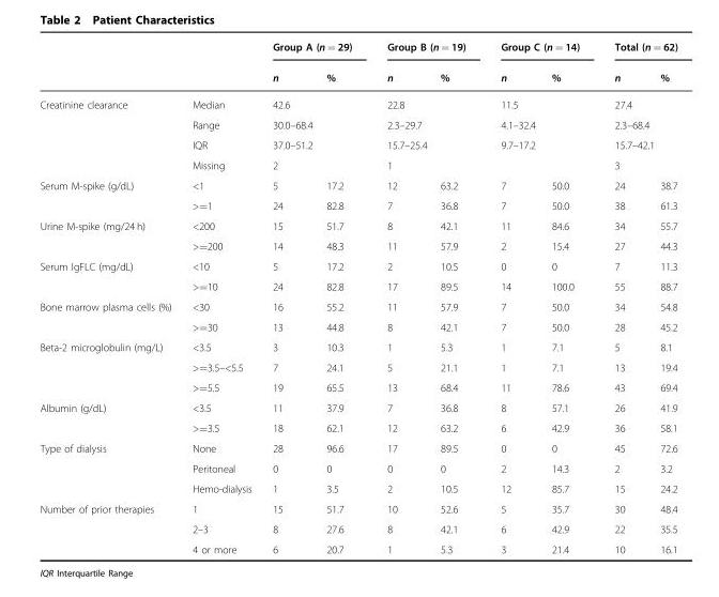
<table><thead><tr><td rowspan="2"></td><td rowspan="2"></td><td colspan="2">Group A (n = 29)</td><td colspan="2">Group B (n = 19)</td><td colspan="2">Group C (n = 14)</td><td colspan="2">Total (n = 62)</td></tr><tr><td>n</td><td>%</td><td>n</td><td>%</td><td>n</td><td>%</td><td>n</td><td>%</td></tr></thead><tbody><tr><td rowspan="4">Creatinine clearance</td><td>Median</td><td colspan="2">42.6</td><td colspan="2">22.8</td><td colspan="2">11.5</td><td colspan="2">27.4</td></tr><tr><td>Range</td><td colspan="2">30.0–68.4</td><td colspan="2">2.3–29.7</td><td colspan="2">4.1–32.4</td><td colspan="2">2.3–68.4</td></tr><tr><td>IQR</td><td colspan="2">37.0–51.2</td><td colspan="2">15.7–25.4</td><td colspan="2">9.7–17.2</td><td colspan="2">15.7–42.1</td></tr><tr><td>Missing</td><td colspan="2">2</td><td colspan="2">1</td><td></td><td></td><td colspan="2">3</td></tr><tr><td rowspan="2">Serum M-spike (g/dL)</td><td>&lt;1</td><td>5</td><td>17.2</td><td>12</td><td>63.2</td><td>7</td><td>50.0</td><td>24</td><td>38.7</td></tr><tr><td>&gt;=1</td><td>24</td><td>82.8</td><td>7</td><td>36.8</td><td>7</td><td>50.0</td><td>38</td><td>61.3</td></tr><tr><td rowspan="2">Urine M-spike (mg/24 h)</td><td>&lt;200</td><td>15</td><td>51.7</td><td>8</td><td>42.1</td><td>11</td><td>84.6</td><td>34</td><td>55.7</td></tr><tr><td>&gt;=200</td><td>14</td><td>48.3</td><td>11</td><td>57.9</td><td>2</td><td>15.4</td><td>27</td><td>44.3</td></tr><tr><td rowspan="2">Serum IgFLC (mg/dL)</td><td>&lt;10</td><td>5</td><td>17.2</td><td>2</td><td>10.5</td><td>0</td><td>0</td><td>7</td><td>11.3</td></tr><tr><td>&gt;=10</td><td>24</td><td>82.8</td><td>17</td><td>89.5</td><td>14</td><td>100.0</td><td>55</td><td>88.7</td></tr><tr><td rowspan="2">Bone marrow plasma cells (%)</td><td>&lt;30</td><td>16</td><td>55.2</td><td>11</td><td>57.9</td><td>7</td><td>50.0</td><td>34</td><td>54.8</td></tr><tr><td>&gt;=30</td><td>13</td><td>44.8</td><td>8</td><td>42.1</td><td>7</td><td>50.0</td><td>28</td><td>45.2</td></tr><tr><td rowspan="3">Beta-2 microglobulin (mg/L)</td><td>&lt;3.5</td><td>3</td><td>10.3</td><td>1</td><td>5.3</td><td>1</td><td>7.1</td><td>5</td><td>8.1</td></tr><tr><td>&gt;=3.5–&lt;5.5</td><td>7</td><td>24.1</td><td>5</td><td>21.1</td><td>1</td><td>7.1</td><td>13</td><td>19.4</td></tr><tr><td>&gt;=5.5</td><td>19</td><td>65.5</td><td>13</td><td>68.4</td><td>11</td><td>78.6</td><td>43</td><td>69.4</td></tr><tr><td rowspan="2">Albumin (g/dL)</td><td>&lt;3.5</td><td>11</td><td>37.9</td><td>7</td><td>36.8</td><td>8</td><td>57.1</td><td>26</td><td>41.9</td></tr><tr><td>&gt;=3.5</td><td>18</td><td>62.1</td><td>12</td><td>63.2</td><td>6</td><td>42.9</td><td>36</td><td>58.1</td></tr><tr><td rowspan="3">Type of dialysis</td><td>None</td><td>28</td><td>96.6</td><td>17</td><td>89.5</td><td>0</td><td>0</td><td>45</td><td>72.6</td></tr><tr><td>Peritoneal</td><td>0</td><td>0</td><td>0</td><td>0</td><td>2</td><td>14.3</td><td>2</td><td>3.2</td></tr><tr><td>Hemo-dialysis</td><td>1</td><td>3.5</td><td>2</td><td>10.5</td><td>12</td><td>85.7</td><td>15</td><td>24.2</td></tr><tr><td rowspan="3">Number of prior therapies</td><td>1</td><td>15</td><td>51.7</td><td>10</td><td>52.6</td><td>5</td><td>35.7</td><td>30</td><td>48.4</td></tr><tr><td>2–3</td><td>8</td><td>27.6</td><td>8</td><td>42.1</td><td>6</td><td>42.9</td><td>22</td><td>35.5</td></tr><tr><td>4 or more</td><td>6</td><td>20.7</td><td>1</td><td>5.3</td><td>3</td><td>21.4</td><td>10</td><td>16.1</td></tr></tbody></table>